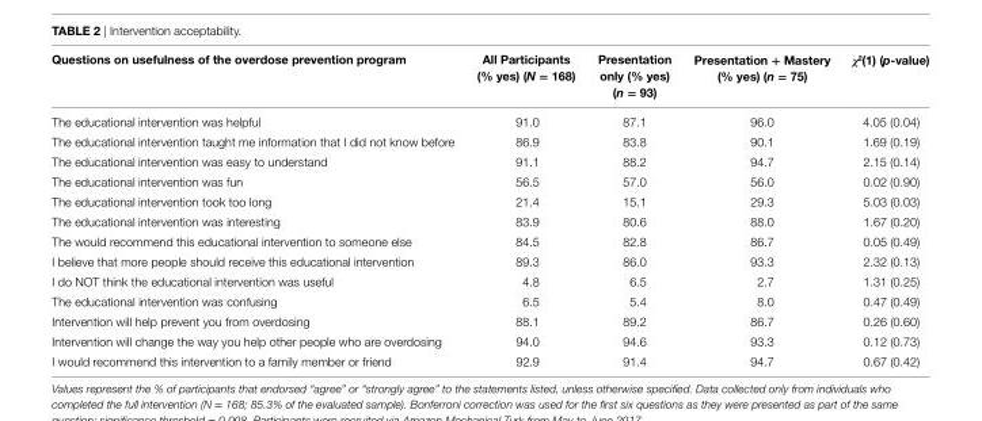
<table><thead><tr><td>Questions on usefulness of the overdose prevention program</td><td>all Participants (% yes) (N = 168)</td><td>Presentation only (% yes) (n = 93)</td><td>Presentation + Mastery (% yes) (n = 75)</td><td>χ<sup>2</sup>(1) (p-value)</td></tr></thead><tbody><tr><td>The educational intervention was helpful</td><td>91.0</td><td>87.1</td><td>96.0</td><td>4.05 (0.04)</td></tr><tr><td>The educational intervention taught me information that I did not know before</td><td>86.9</td><td>83.8</td><td>90.1</td><td>1.69 (0.19)</td></tr><tr><td>The educational intervention was easy to understand</td><td>91.1</td><td>88.2</td><td>94.7</td><td>2.15 (0.14)</td></tr><tr><td>The educational intervention was fun</td><td>56.5</td><td>57.0</td><td>56.0</td><td>0.02 (0.90)</td></tr><tr><td>The educational intervention took too long</td><td>21.4</td><td>15.1</td><td>29.3</td><td>5.03 (0.03)</td></tr><tr><td>The educational intervention was interesting</td><td>83.9</td><td>80.6</td><td>88.0</td><td>1.67 (0.20)</td></tr><tr><td>The would recommend this educational intervention to someone else</td><td>84.5</td><td>82.8</td><td>86.7</td><td>0.05 (0.49)</td></tr><tr><td>I believe that more people should receive this educational intervention</td><td>89.3</td><td>86.0</td><td>93.3</td><td>2.32 (0.13)</td></tr><tr><td>I do NOT think the educational intervention was useful</td><td>4.8</td><td>6.5</td><td>2.7</td><td>1.31 (0.25)</td></tr><tr><td>The educational intervention was confusing</td><td>6.5</td><td>5.4</td><td>8.0</td><td>0.47 (0.49)</td></tr><tr><td>Intervention will help prevent you from overdosing</td><td>88.1</td><td>89.2</td><td>86.7</td><td>0.26 (0.60)</td></tr><tr><td>Intervention will change the way you help other people who are overdosing</td><td>94.0</td><td>94.6</td><td>93.3</td><td>0.12 (0.73)</td></tr><tr><td>I would recommend this intervention to a family member or friend</td><td>92.9</td><td>91.4</td><td>94.7</td><td>0.67 (0.42)</td></tr></tbody></table>